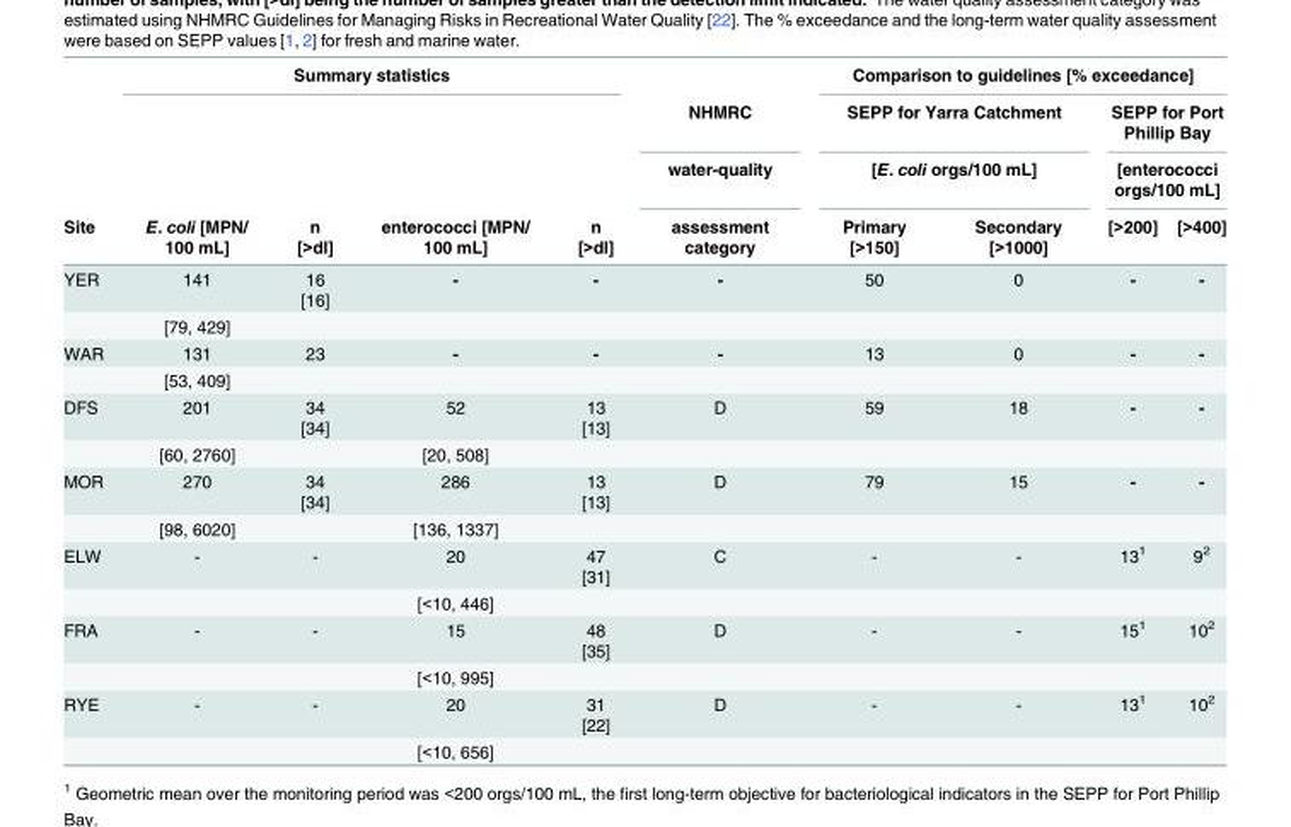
<table><thead><tr><td rowspan="4">Site</td><td colspan="4">Summary statistics</td><td rowspan="4">NHMRC water-quality assessment category</td><td colspan="4">Comparison to guidelines [% exceedance]</td></tr><tr><td rowspan="3">E. coli [MPN/ 100 mL]</td><td rowspan="3">n [&gt;dl]</td><td rowspan="3">enterococci [MPN/ 100 mL]</td><td rowspan="3">n [&gt;dl]</td><td rowspan="2" colspan="2">SEPP for Yarra Catchment [E. coli orgs/100 mL]</td><td rowspan="2" colspan="2">SEPP for Port Phillip Bay [enterococci orgs/100 mL]</td></tr><tr></tr><tr><td>Primary [&gt;150]</td><td>Secondary [&gt;1000]</td><td>[&gt;200]</td><td>[&gt;400]</td></tr></thead><tbody><tr><td rowspan="2">YER</td><td>141</td><td>16 [16]</td><td>-</td><td>-</td><td>-</td><td>50</td><td>0</td><td>-</td><td>-</td></tr><tr><td>[79, 429]</td><td></td><td></td><td></td><td></td><td></td><td></td><td></td><td></td></tr><tr><td rowspan="2">WAR</td><td>131</td><td>23</td><td>-</td><td>-</td><td>-</td><td>13</td><td>0</td><td>-</td><td>-</td></tr><tr><td>[53, 409]</td><td></td><td></td><td></td><td></td><td></td><td></td><td></td><td></td></tr><tr><td rowspan="2">DFS</td><td>201</td><td>34 [34]</td><td>52</td><td>13 [13]</td><td>D</td><td>59</td><td>18</td><td>-</td><td>-</td></tr><tr><td>[60, 2760]</td><td></td><td>[20, 508]</td><td></td><td></td><td></td><td></td><td></td><td></td></tr><tr><td rowspan="2">MOR</td><td>270</td><td>34 [34]</td><td>286</td><td>13 [13]</td><td>D</td><td>79</td><td>15</td><td>-</td><td>-</td></tr><tr><td>[98, 6020]</td><td></td><td>[136, 1337]</td><td></td><td></td><td></td><td></td><td></td><td></td></tr><tr><td rowspan="2">ELW</td><td>-</td><td>-</td><td>20</td><td>47 [31]</td><td>C</td><td>-</td><td>-</td><td>13<sup>1</sup></td><td>9<sup>2</sup></td></tr><tr><td></td><td></td><td>[&lt;10, 446]</td><td></td><td></td><td></td><td></td><td></td><td></td></tr><tr><td rowspan="2">FRA</td><td>-</td><td>-</td><td>15</td><td>48 [35]</td><td>D</td><td>-</td><td>-</td><td>15<sup>1</sup></td><td>10<sup>2</sup></td></tr><tr><td></td><td></td><td>[&lt;10, 995]</td><td></td><td></td><td></td><td></td><td></td><td></td></tr><tr><td rowspan="2">RYE</td><td>-</td><td>-</td><td>20</td><td>31 [22]</td><td>D</td><td>-</td><td>-</td><td>13<sup>1</sup></td><td>10<sup>2</sup></td></tr><tr><td></td><td></td><td>[&lt;10, 656]</td><td></td><td></td><td></td><td></td><td></td><td></td></tr></tbody></table>